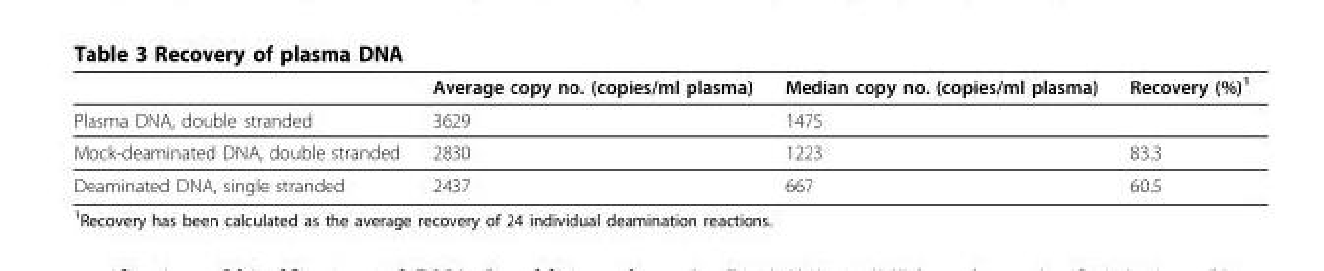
<table><thead><tr><td></td><td>Average copy no. (copies/ml plasma)</td><td>Median copy no. (copies/ml plasma)</td><td>Recovery (%)<sup>1</sup></td></tr></thead><tbody><tr><td>Plasma DNA, double stranded</td><td>3629</td><td>1475</td><td></td></tr><tr><td>Mock-deaminated DNA, double stranded</td><td>2830</td><td>1223</td><td>83.3</td></tr><tr><td>Deaminated DNA, single stranded</td><td>2437</td><td>667</td><td>60.5</td></tr></tbody></table>